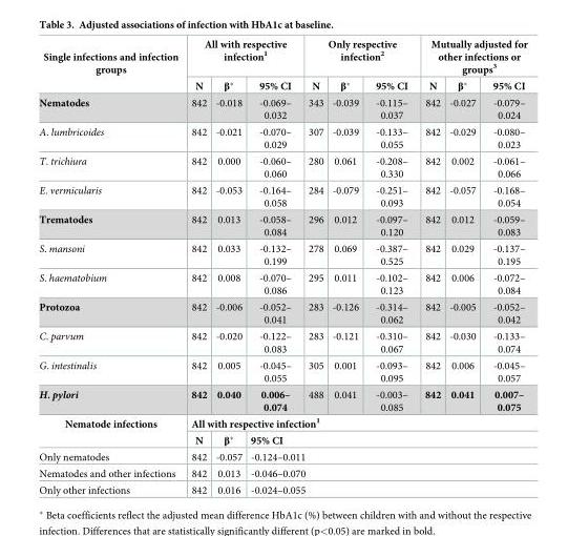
<table><tbody><tr><td rowspan="2">Single infections and infection groups</td><td colspan="3">All with respective infection<sup>1</sup></td><td colspan="3">Only respective infection<sup>2</sup></td><td colspan="3">Mutually adjusted for other infections or groups<sup>3</sup></td></tr><tr><td>N</td><td>β*</td><td>95% CI</td><td>N</td><td>β*</td><td>95% CI</td><td>N</td><td>β*</td><td>95% CI</td></tr><tr><td>Nematodes</td><td>842</td><td>-0.018</td><td>-0.069– 0.032</td><td>343</td><td>-0.039</td><td>-0.115– 0.037</td><td>842</td><td>-0.027</td><td>-0.079– 0.024</td></tr><tr><td>A. lumbricoides</td><td>842</td><td>-0.021</td><td>-0.070– 0.029</td><td>307</td><td>-0.039</td><td>-0.133– 0.055</td><td>842</td><td>-0.029</td><td>-0.080– 0.023</td></tr><tr><td>T. trichiura</td><td>842</td><td>0.000</td><td>-0.060– 0.060</td><td>280</td><td>0.061</td><td>-0.208– 0.330</td><td>842</td><td>0.002</td><td>-0.061– 0.066</td></tr><tr><td>E. vermicularis</td><td>842</td><td>-0.053</td><td>-0.164– 0.058</td><td>284</td><td>-0.079</td><td>-0.251– 0.093</td><td>842</td><td>-0.057</td><td>-0.168– 0.054</td></tr><tr><td>Trematodes</td><td>842</td><td>0.013</td><td>-0.058– 0.084</td><td>296</td><td>0.012</td><td>-0.097– 0.120</td><td>842</td><td>0.012</td><td>-0.059– 0.083</td></tr><tr><td>S. mansoni</td><td>842</td><td>0.033</td><td>-0.132– 0.199</td><td>278</td><td>0.069</td><td>-0.387– 0.525</td><td>842</td><td>0.029</td><td>-0.137– 0.195</td></tr><tr><td>S. haematobium</td><td>842</td><td>0.008</td><td>-0.070– 0.086</td><td>295</td><td>0.011</td><td>-0.102– 0.123</td><td>842</td><td>0.006</td><td>-0.072– 0.084</td></tr><tr><td>Protozoa</td><td>842</td><td>-0.006</td><td>-0.052– 0.041</td><td>283</td><td>-0.126</td><td>-0.314– 0.062</td><td>842</td><td>-0.005</td><td>-0.052– 0.042</td></tr><tr><td>C. parvum</td><td>842</td><td>-0.020</td><td>-0.122– 0.083</td><td>283</td><td>-0.121</td><td>-0.310– 0.067</td><td>842</td><td>-0.030</td><td>-0.133– 0.074</td></tr><tr><td>G. intestinalis</td><td>842</td><td>0.005</td><td>-0.045– 0.055</td><td>305</td><td>0.001</td><td>-0.093– 0.095</td><td>842</td><td>0.006</td><td>-0.045– 0.057</td></tr><tr><td>H. pylori</td><td>842</td><td>0.040</td><td>0.006– 0.074</td><td>488</td><td>0.041</td><td>-0.003– 0.085</td><td>842</td><td>0.041</td><td>0.007– 0.075</td></tr><tr><td rowspan="2">Nematode infections</td><td colspan="9">All with respective infection<sup>1</sup></td></tr><tr><td>N</td><td>β*</td><td colspan="7">95% CI</td></tr><tr><td>Only nematodes</td><td>842</td><td>-0.057</td><td colspan="7">-0.124–0.011</td></tr><tr><td>Nematodes and other infections</td><td>842</td><td>0.013</td><td colspan="7">-0.046–0.070</td></tr><tr><td>Only other infections</td><td>842</td><td>0.016</td><td colspan="7">-0.024–0.055</td></tr></tbody></table>